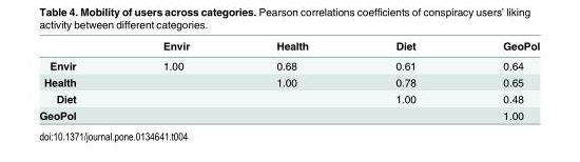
<table><thead><tr><td></td><td>Envir</td><td>Health</td><td>Diet</td><td>GeoPol</td></tr></thead><tbody><tr><td>Envir</td><td>1.00</td><td>0.68</td><td>0.61</td><td>0.64</td></tr><tr><td>Health</td><td></td><td>1.00</td><td>0.78</td><td>0.65</td></tr><tr><td>Diet</td><td></td><td></td><td>1.00</td><td>0.48</td></tr><tr><td>GeoPol</td><td></td><td></td><td></td><td>1.00</td></tr></tbody></table>